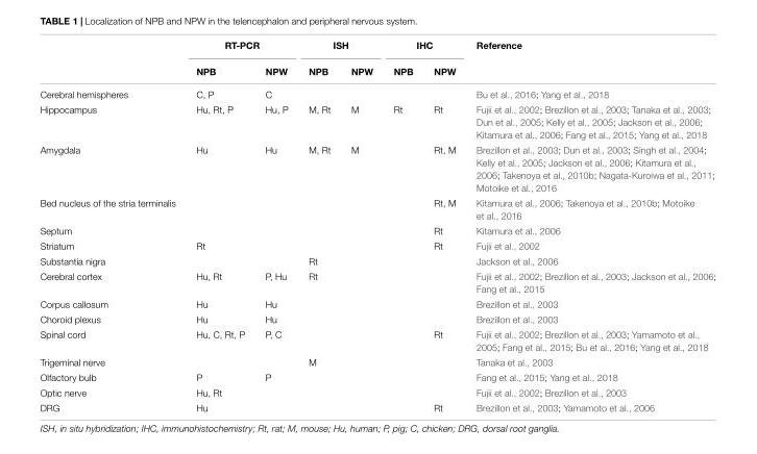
<table><thead><tr><td rowspan="2"></td><td colspan="2">RT-PCR</td><td colspan="2">ISH</td><td colspan="2">IHC</td><td rowspan="2">Reference</td></tr><tr><td>NPB</td><td>NPW</td><td>NPB</td><td>NPW</td><td>NPB</td><td>NPW</td></tr></thead><tbody><tr><td>Cerebral hemispheres</td><td>C, P</td><td>C</td><td></td><td></td><td></td><td></td><td>Bu et al., 2016; Yang et al., 2018</td></tr><tr><td>Hippocampus</td><td>Hu, Rt, P</td><td>Hu, P</td><td>M, Rt</td><td>M</td><td>Rt</td><td>Rt</td><td>Fujii et al., 2002; Brezillon et al., 2003; Tanaka et al., 2003; Dun et al., 2005; Kelly et al., 2005; Jackson et al., 2006; Kitamura et al., 2006; Fang et al., 2015; Yang et al., 2018</td></tr><tr><td>Amygdala</td><td>Hu</td><td>Hu</td><td>M, Rt</td><td>M</td><td></td><td>Rt, M</td><td>Brezillon et al., 2003; Dun et al., 2003; Singh et al., 2004; Kelly et al., 2005; Jackson et al., 2006; Kitamura et al., 2006; Takenoya et al., 2010b; Nagata-Kuroiwa et al., 2011; Motoike et al., 2016</td></tr><tr><td>Bed nucleus of the stria terminalis</td><td></td><td></td><td></td><td></td><td></td><td>Rt, M</td><td>Kitamura et al., 2006; Takenoya et al., 2010b; Motoike et al., 2016</td></tr><tr><td>Septum</td><td></td><td></td><td></td><td></td><td></td><td>Rt</td><td>Kitamura et al., 2006</td></tr><tr><td>Striatum</td><td>Rt</td><td></td><td></td><td></td><td></td><td>Rt</td><td>Fujii et al., 2002</td></tr><tr><td>Substantia nigra</td><td></td><td></td><td>Rt</td><td></td><td></td><td></td><td>Jackson et al., 2006</td></tr><tr><td>Cerebral cortex</td><td>Hu, Rt</td><td>P, Hu</td><td>Rt</td><td></td><td></td><td></td><td>Fujii et al., 2002; Brezillon et al., 2003; Jackson et al., 2006; Fang et al., 2015</td></tr><tr><td>Corpus callosum</td><td>Hu</td><td>Hu</td><td></td><td></td><td></td><td></td><td>Brezillon et al., 2003</td></tr><tr><td>Choroid plexus</td><td>Hu</td><td>Hu</td><td></td><td></td><td></td><td></td><td>Brezillon et al., 2003</td></tr><tr><td>Spinal cord</td><td>Hu, C, Rt, P</td><td>P, C</td><td></td><td></td><td></td><td>Rt</td><td>Fujii et al., 2002; Brezillon et al., 2003; Yamamoto et al., 2005; Fang et al., 2015; Bu et al., 2016; Yang et al., 2018</td></tr><tr><td>Trigeminal nerve</td><td></td><td></td><td>M</td><td></td><td></td><td></td><td>Tanaka et al., 2003</td></tr><tr><td>Olfactory bulb</td><td>P</td><td>P</td><td></td><td></td><td></td><td></td><td>Fang et al., 2015; Yang et al., 2018</td></tr><tr><td>Optic nerve</td><td>Hu, Rt</td><td></td><td></td><td></td><td></td><td></td><td>Fujii et al., 2002; Brezillon et al., 2003</td></tr><tr><td>DRG</td><td>Hu</td><td></td><td></td><td></td><td></td><td>Rt</td><td>Brezillon et al., 2003; Yamamoto et al., 2006</td></tr></tbody></table>